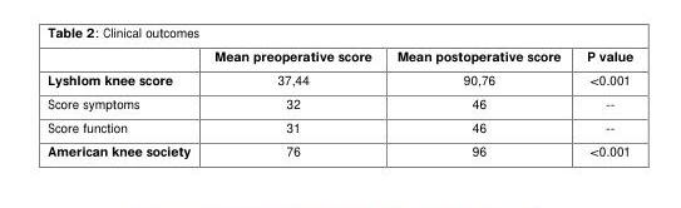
<table><thead><tr><td></td><td>Mean preoperative score</td><td>Mean postoperative score</td><td>P value</td></tr></thead><tbody><tr><td>Lyshlom knee score</td><td>37,44</td><td>90,76</td><td>&lt;0.001</td></tr><tr><td>Score symptoms</td><td>32</td><td>46</td><td>--</td></tr><tr><td>Score function</td><td>31</td><td>46</td><td>--</td></tr><tr><td>American knee society</td><td>76</td><td>96</td><td>&lt;0.001</td></tr></tbody></table>